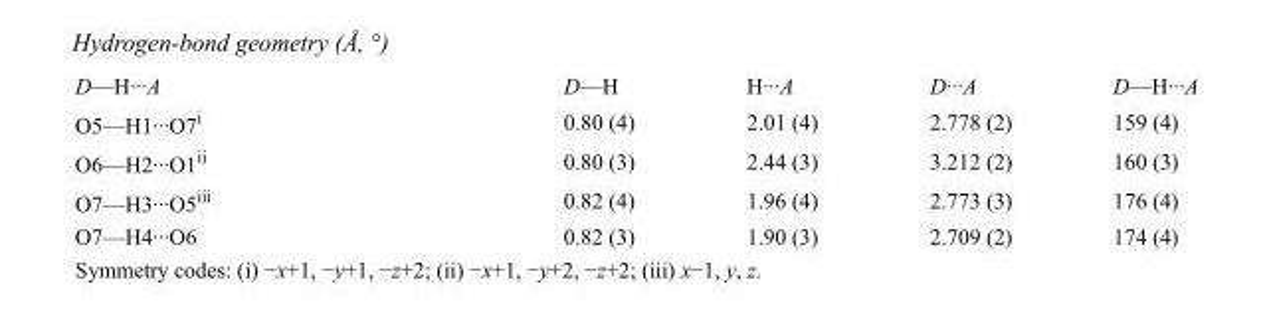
<table><tbody><tr><td>D—H···A</td><td>D—H</td><td>H···A</td><td>D···A</td><td>D—H···A</td></tr><tr><td>O5—H1···O7<sup>i</sup></td><td>0.80 (4)</td><td>2.01 (4)</td><td>2.778 (2)</td><td>159 (4)</td></tr><tr><td>O6—H2···O1<sup>ii</sup></td><td>0.80 (3)</td><td>2.44 (3)</td><td>3.212 (2)</td><td>160 (3)</td></tr><tr><td>O7—H3···O5<sup>iii</sup></td><td>0.82 (4)</td><td>1.96 (4)</td><td>2.773 (3)</td><td>176 (4)</td></tr><tr><td>O7—H4···O6</td><td>0.82 (3)</td><td>1.90 (3)</td><td>2.709 (2)</td><td>174 (4)</td></tr></tbody></table>